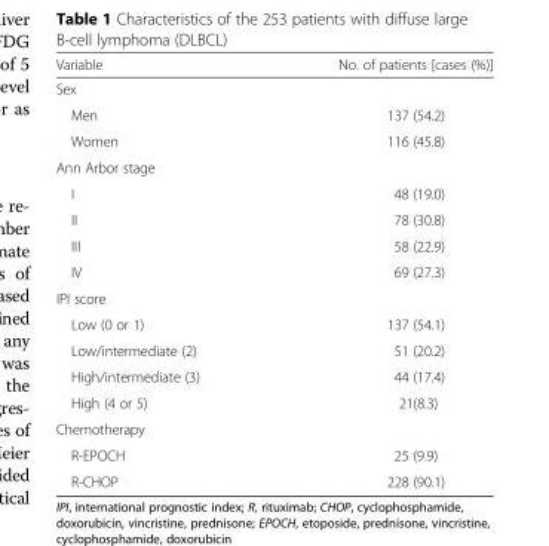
<table><thead><tr><td>Variable</td><td>No. of patients [cases (%)]</td></tr></thead><tbody><tr><td colspan="2">Sex</td></tr><tr><td>Men</td><td>137 (54.2)</td></tr><tr><td>Women</td><td>116 (45.8)</td></tr><tr><td colspan="2">Ann Arbor stage</td></tr><tr><td>I</td><td>48 (19.0)</td></tr><tr><td>II</td><td>78 (30.8)</td></tr><tr><td>III</td><td>58 (22.9)</td></tr><tr><td>IV</td><td>69 (27.3)</td></tr><tr><td colspan="2">IPI score</td></tr><tr><td>Low (0 or 1)</td><td>137 (54.1)</td></tr><tr><td>Low/intermediate (2)</td><td>51 (20.2)</td></tr><tr><td>High/intermediate (3)</td><td>44 (17.4)</td></tr><tr><td>High (4 or 5)</td><td>21(8.3)</td></tr><tr><td colspan="2">Chemotherapy</td></tr><tr><td>R-EPOCH</td><td>25 (9.9)</td></tr><tr><td>R-CHOP</td><td>228 (90.1)</td></tr></tbody></table>